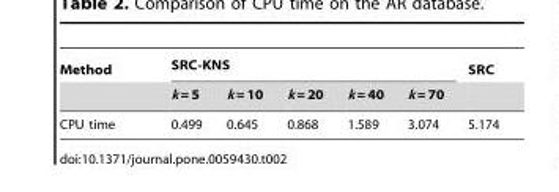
<table><thead><tr><td rowspan="2">Method</td><td colspan="5">SRC-KNS</td><td rowspan="2">SRC</td></tr><tr><td>k = 5</td><td>k = 10</td><td>k = 20</td><td>k = 40</td><td>k = 70</td></tr></thead><tbody><tr><td>CPU time</td><td>0.499</td><td>0.645</td><td>0.868</td><td>1.589</td><td>3.074</td><td>5.174</td></tr></tbody></table>